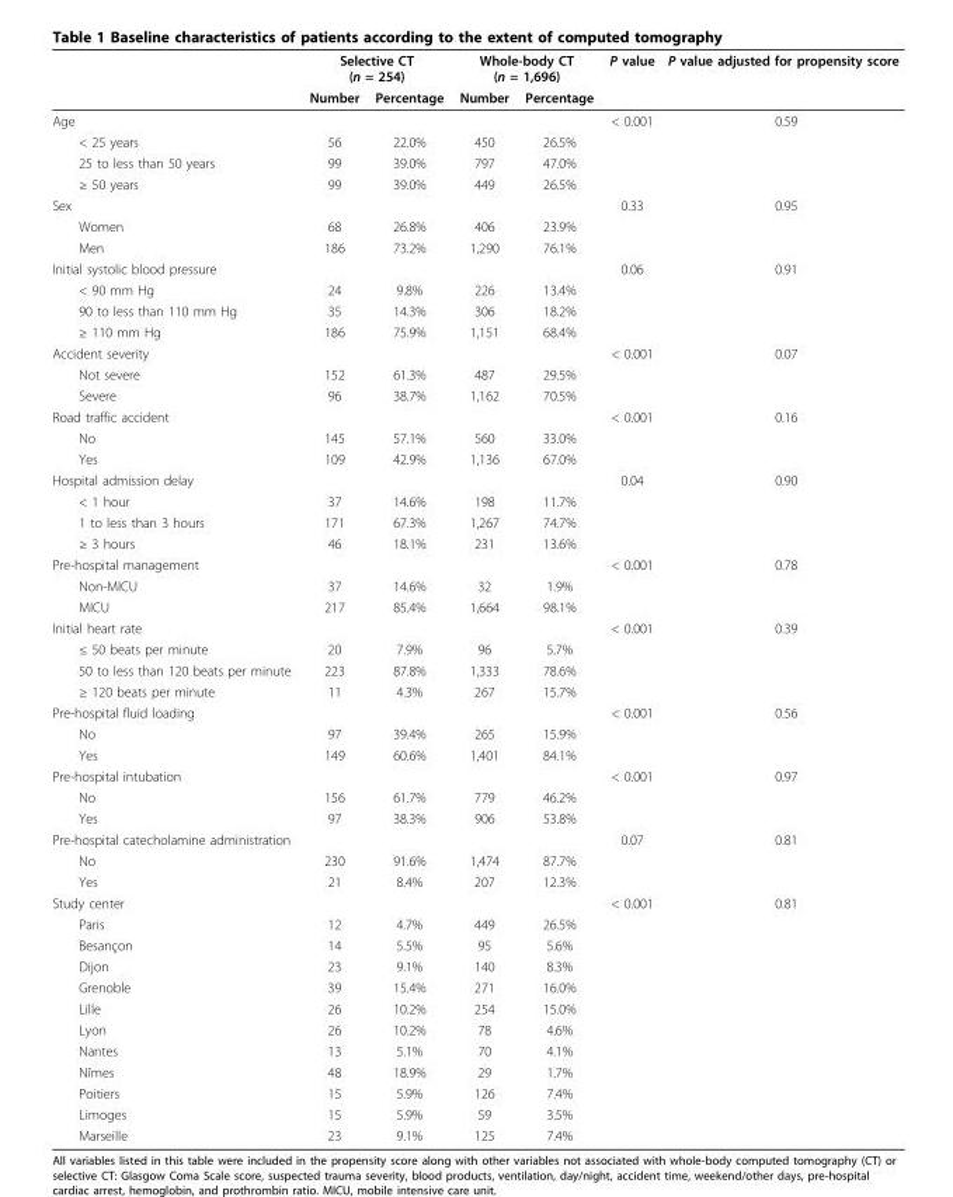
<table><thead><tr><td rowspan="2"></td><td colspan="2">Selective CT (n = 254)</td><td colspan="2">Whole-body CT (n = 1,696)</td><td rowspan="2">P value</td><td rowspan="2">P value adjusted for propensity score</td></tr><tr><td>Number</td><td>Percentage</td><td>Number</td><td>Percentage</td></tr></thead><tbody><tr><td>Age</td><td></td><td></td><td></td><td></td><td>&lt; 0.001</td><td>0.59</td></tr><tr><td>&lt; 25 years</td><td>56</td><td>22.0%</td><td>450</td><td>26.5%</td><td></td><td></td></tr><tr><td>25 to less than 50 years</td><td>99</td><td>39.0%</td><td>797</td><td>47.0%</td><td></td><td></td></tr><tr><td>≥ 50 years</td><td>99</td><td>39.0%</td><td>449</td><td>26.5%</td><td></td><td></td></tr><tr><td>Sex</td><td></td><td></td><td></td><td></td><td>0.33</td><td>0.95</td></tr><tr><td>Women</td><td>68</td><td>26.8%</td><td>406</td><td>23.9%</td><td></td><td></td></tr><tr><td>Men</td><td>186</td><td>73.2%</td><td>1,290</td><td>76.1%</td><td></td><td></td></tr><tr><td>Initial systolic blood pressure</td><td></td><td></td><td></td><td></td><td>0.06</td><td>0.91</td></tr><tr><td>&lt; 90 mm Hg</td><td>24</td><td>9.8%</td><td>226</td><td>13.4%</td><td></td><td></td></tr><tr><td>90 to less than 110 mm Hg</td><td>35</td><td>14.3%</td><td>306</td><td>18.2%</td><td></td><td></td></tr><tr><td>≥ 110 mm Hg</td><td>186</td><td>75.9%</td><td>1,151</td><td>68.4%</td><td></td><td></td></tr><tr><td>Accident severity</td><td></td><td></td><td></td><td></td><td>&lt; 0.001</td><td>0.07</td></tr><tr><td>Not severe</td><td>152</td><td>61.3%</td><td>487</td><td>29.5%</td><td></td><td></td></tr><tr><td>Severe</td><td>96</td><td>38.7%</td><td>1,162</td><td>70.5%</td><td></td><td></td></tr><tr><td>Road traffic accident</td><td></td><td></td><td></td><td></td><td>&lt; 0.001</td><td>0.16</td></tr><tr><td>No</td><td>145</td><td>57.1%</td><td>560</td><td>33.0%</td><td></td><td></td></tr><tr><td>Yes</td><td>109</td><td>42.9%</td><td>1,136</td><td>67.0%</td><td></td><td></td></tr><tr><td>Hospital admission delay</td><td></td><td></td><td></td><td></td><td>0.04</td><td>0.90</td></tr><tr><td>&lt; 1 hour</td><td>37</td><td>14.6%</td><td>198</td><td>11.7%</td><td></td><td></td></tr><tr><td>1 to less than 3 hours</td><td>171</td><td>67.3%</td><td>1,267</td><td>74.7%</td><td></td><td></td></tr><tr><td>≥ 3 hours</td><td>46</td><td>18.1%</td><td>231</td><td>13.6%</td><td></td><td></td></tr><tr><td>Pre-hospital management</td><td></td><td></td><td></td><td></td><td>&lt; 0.001</td><td>0.78</td></tr><tr><td>Non-MICU</td><td>37</td><td>14.6%</td><td>32</td><td>1.9%</td><td></td><td></td></tr><tr><td>MICU</td><td>217</td><td>85.4%</td><td>1,664</td><td>98.1%</td><td></td><td></td></tr><tr><td>Initial heart rate</td><td></td><td></td><td></td><td></td><td>&lt; 0.001</td><td>0.39</td></tr><tr><td>≤ 50 beats per minute</td><td>20</td><td>7.9%</td><td>96</td><td>5.7%</td><td></td><td></td></tr><tr><td>50 to less than 120 beats per minute</td><td>223</td><td>87.8%</td><td>1,333</td><td>78.6%</td><td></td><td></td></tr><tr><td>≥ 120 beats per minute</td><td>11</td><td>4.3%</td><td>267</td><td>15.7%</td><td></td><td></td></tr><tr><td>Pre-hospital fluid loading</td><td></td><td></td><td></td><td></td><td>&lt; 0.001</td><td>0.56</td></tr><tr><td>No</td><td>97</td><td>39.4%</td><td>265</td><td>15.9%</td><td></td><td></td></tr><tr><td>Yes</td><td>149</td><td>60.6%</td><td>1,401</td><td>84.1%</td><td></td><td></td></tr><tr><td>Pre-hospital intubation</td><td></td><td></td><td></td><td></td><td>&lt; 0.001</td><td>0.97</td></tr><tr><td>No</td><td>156</td><td>61.7%</td><td>779</td><td>46.2%</td><td></td><td></td></tr><tr><td>Yes</td><td>97</td><td>38.3%</td><td>906</td><td>53.8%</td><td></td><td></td></tr><tr><td>Pre-hospital catecholamine administration</td><td></td><td></td><td></td><td></td><td>0.07</td><td>0.81</td></tr><tr><td>No</td><td>230</td><td>91.6%</td><td>1,474</td><td>87.7%</td><td></td><td></td></tr><tr><td>Yes</td><td>21</td><td>8.4%</td><td>207</td><td>12.3%</td><td></td><td></td></tr><tr><td>Study center</td><td></td><td></td><td></td><td></td><td>&lt; 0.001</td><td>0.81</td></tr><tr><td>Paris</td><td>12</td><td>4.7%</td><td>449</td><td>26.5%</td><td></td><td></td></tr><tr><td>Besançon</td><td>14</td><td>5.5%</td><td>95</td><td>5.6%</td><td></td><td></td></tr><tr><td>Dijon</td><td>23</td><td>9.1%</td><td>140</td><td>8.3%</td><td></td><td></td></tr><tr><td>Grenoble</td><td>39</td><td>15.4%</td><td>271</td><td>16.0%</td><td></td><td></td></tr><tr><td>Lille</td><td>26</td><td>10.2%</td><td>254</td><td>15.0%</td><td></td><td></td></tr><tr><td>Lyon</td><td>26</td><td>10.2%</td><td>78</td><td>4.6%</td><td></td><td></td></tr><tr><td>Nantes</td><td>13</td><td>5.1%</td><td>70</td><td>4.1%</td><td></td><td></td></tr><tr><td>Nîmes</td><td>48</td><td>18.9%</td><td>29</td><td>1.7%</td><td></td><td></td></tr><tr><td>Poitiers</td><td>15</td><td>5.9%</td><td>126</td><td>7.4%</td><td></td><td></td></tr><tr><td>Limoges</td><td>15</td><td>5.9%</td><td>59</td><td>3.5%</td><td></td><td></td></tr><tr><td>Marseille</td><td>23</td><td>9.1%</td><td>125</td><td>7.4%</td><td></td><td></td></tr></tbody></table>